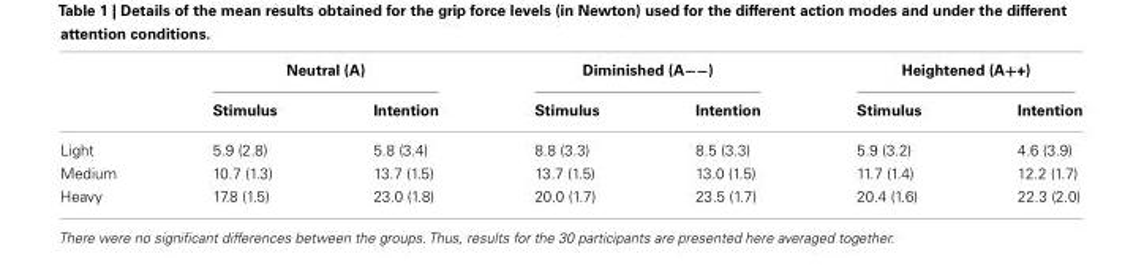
<table><thead><tr><td rowspan="2"></td><td colspan="2">Neutral (A)</td><td colspan="2">Diminished (A−−)</td><td colspan="2">Heightened (A++)</td></tr><tr><td>Stimulus</td><td>Intention</td><td>Stimulus</td><td>Intention</td><td>Stimulus</td><td>Intention</td></tr></thead><tbody><tr><td>Light</td><td>5.9 (2.8)</td><td>5.8 (3.4)</td><td>8.8 (3.3)</td><td>8.5 (3.3)</td><td>5.9 (3.2)</td><td>4.6 (3.9)</td></tr><tr><td>Medium</td><td>10.7 (1.3)</td><td>13.7 (1.5)</td><td>13.7 (1.5)</td><td>13.0 (1.5)</td><td>11.7 (1.4)</td><td>12.2 (1.7)</td></tr><tr><td>Heavy</td><td>17.8 (1.5)</td><td>23.0 (1.8)</td><td>20.0 (1.7)</td><td>23.5 (1.7)</td><td>20.4 (1.6)</td><td>22.3 (2.0)</td></tr></tbody></table>